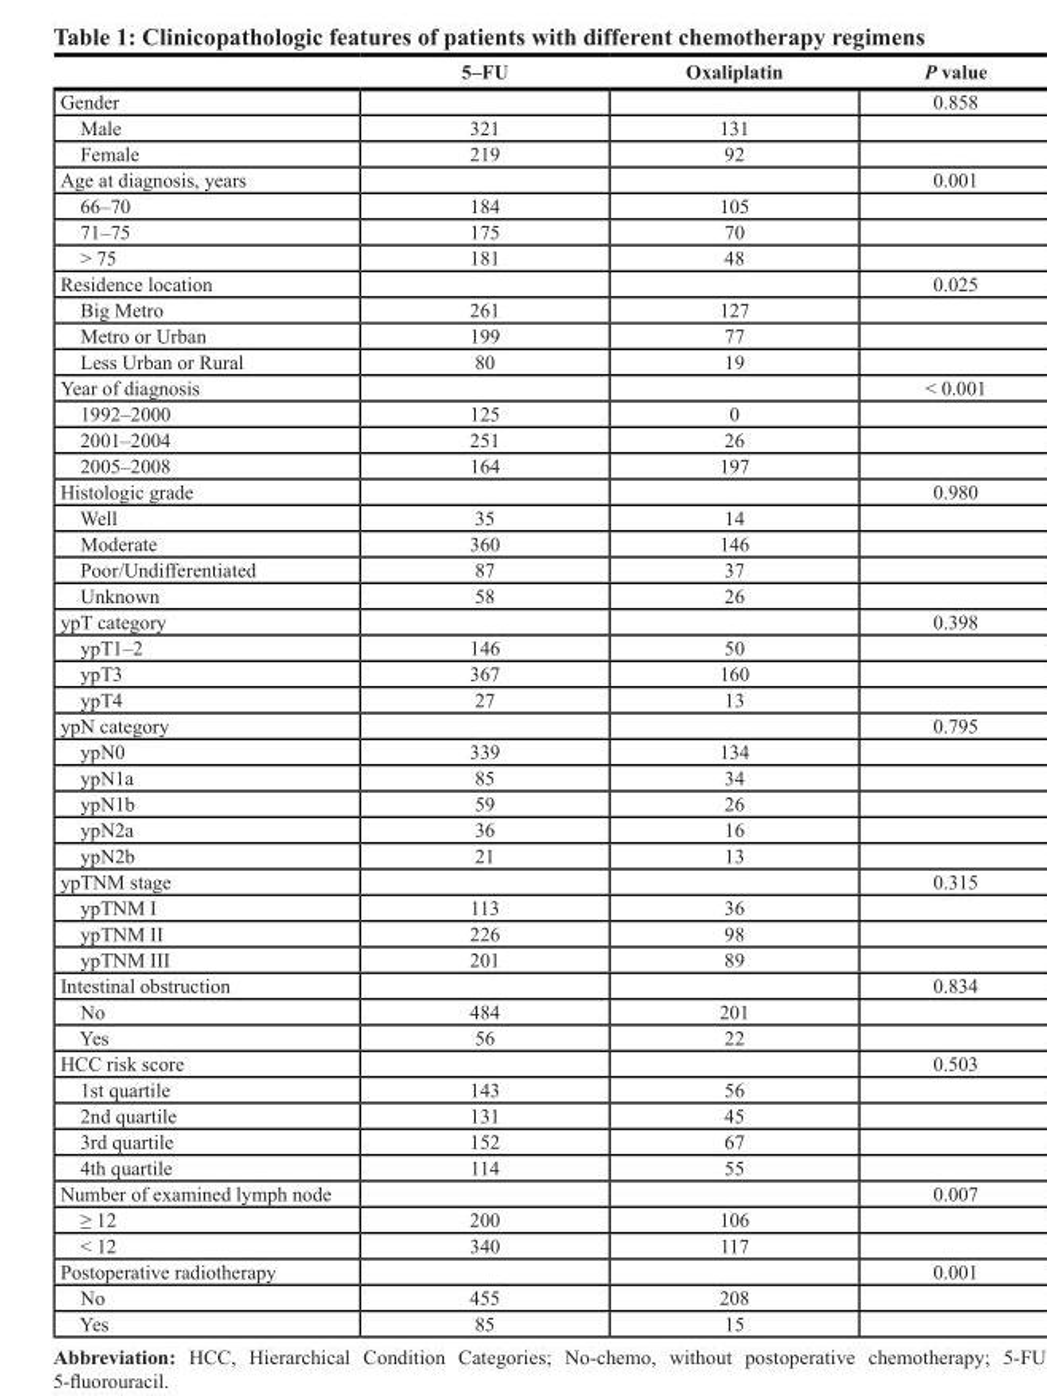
<table><thead><tr><td></td><td>5–FU</td><td>Oxaliplatin</td><td>P value</td></tr></thead><tbody><tr><td>Gender</td><td></td><td></td><td>0.858</td></tr><tr><td>Male</td><td>321</td><td>131</td><td></td></tr><tr><td>Female</td><td>219</td><td>92</td><td></td></tr><tr><td>Age at diagnosis, years</td><td></td><td></td><td>0.001</td></tr><tr><td>66–70</td><td>184</td><td>105</td><td></td></tr><tr><td>71–75</td><td>175</td><td>70</td><td></td></tr><tr><td>&gt; 75</td><td>181</td><td>48</td><td></td></tr><tr><td>Residence location</td><td></td><td></td><td>0.025</td></tr><tr><td>Big Metro</td><td>261</td><td>127</td><td></td></tr><tr><td>Metro or Urban</td><td>199</td><td>77</td><td></td></tr><tr><td>Less Urban or Rural</td><td>80</td><td>19</td><td></td></tr><tr><td>Year of diagnosis</td><td></td><td></td><td>&lt; 0.001</td></tr><tr><td>1992–2000</td><td>125</td><td>0</td><td></td></tr><tr><td>2001–2004</td><td>251</td><td>26</td><td></td></tr><tr><td>2005–2008</td><td>164</td><td>197</td><td></td></tr><tr><td>Histologic grade</td><td></td><td></td><td>0.980</td></tr><tr><td>Well</td><td>35</td><td>14</td><td></td></tr><tr><td>Moderate</td><td>360</td><td>146</td><td></td></tr><tr><td>Poor/Undifferentiated</td><td>87</td><td>37</td><td></td></tr><tr><td>Unknown</td><td>58</td><td>26</td><td></td></tr><tr><td>ypT category</td><td></td><td></td><td>0.398</td></tr><tr><td>ypT1–2</td><td>146</td><td>50</td><td></td></tr><tr><td>ypT3</td><td>367</td><td>160</td><td></td></tr><tr><td>ypT4</td><td>27</td><td>13</td><td></td></tr><tr><td>ypN category</td><td></td><td></td><td>0.795</td></tr><tr><td>ypN0</td><td>339</td><td>134</td><td></td></tr><tr><td>ypN1a</td><td>85</td><td>34</td><td></td></tr><tr><td>ypN1b</td><td>59</td><td>26</td><td></td></tr><tr><td>ypN2a</td><td>36</td><td>16</td><td></td></tr><tr><td>ypN2b</td><td>21</td><td>13</td><td></td></tr><tr><td>ypTNM stage</td><td></td><td></td><td>0.315</td></tr><tr><td>ypTNM I</td><td>113</td><td>36</td><td></td></tr><tr><td>ypTNM II</td><td>226</td><td>98</td><td></td></tr><tr><td>ypTNM III</td><td>201</td><td>89</td><td></td></tr><tr><td>Intestinal obstruction</td><td></td><td></td><td>0.834</td></tr><tr><td>No</td><td>484</td><td>201</td><td></td></tr><tr><td>Yes</td><td>56</td><td>22</td><td></td></tr><tr><td>HCC risk score</td><td></td><td></td><td>0.503</td></tr><tr><td>1st quartile</td><td>143</td><td>56</td><td></td></tr><tr><td>2nd quartile</td><td>131</td><td>45</td><td></td></tr><tr><td>3rd quartile</td><td>152</td><td>67</td><td></td></tr><tr><td>4th quartile</td><td>114</td><td>55</td><td></td></tr><tr><td>Number of examined lymph node</td><td></td><td></td><td>0.007</td></tr><tr><td>≥ 12</td><td>200</td><td>106</td><td></td></tr><tr><td>&lt; 12</td><td>340</td><td>117</td><td></td></tr><tr><td>Postoperative radiotherapy</td><td></td><td></td><td>0.001</td></tr><tr><td>No</td><td>455</td><td>208</td><td></td></tr><tr><td>Yes</td><td>85</td><td>15</td><td></td></tr></tbody></table>